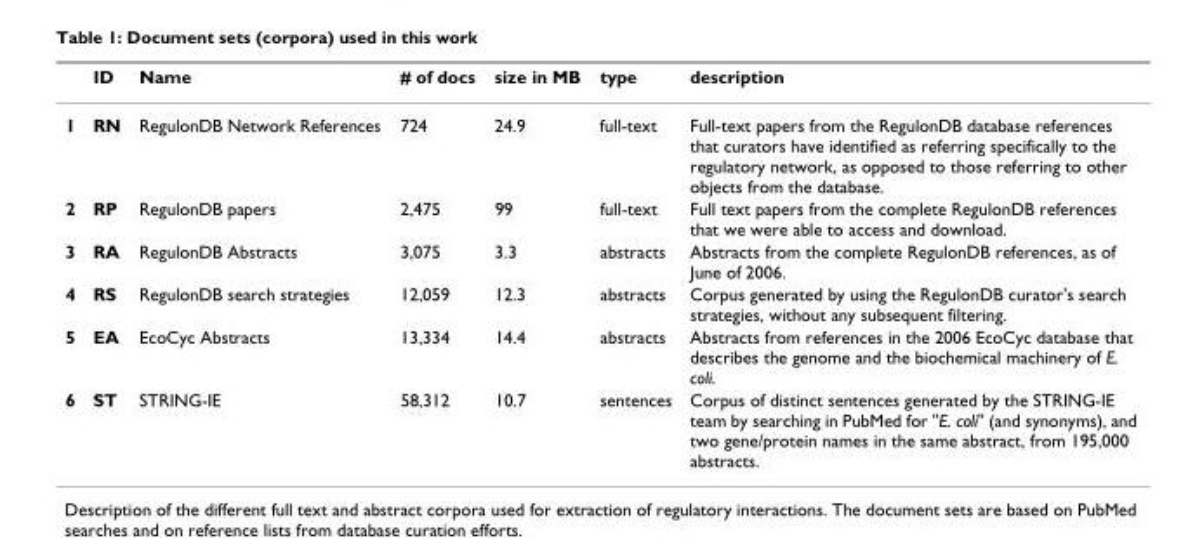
<table><thead><tr><td></td><td>ID</td><td>Name</td><td># of docs</td><td>size in MB</td><td>type</td><td>description</td></tr></thead><tbody><tr><td>1</td><td>RN</td><td>RegulonDB Network References</td><td>724</td><td>24.9</td><td>full-text</td><td>Full-text papers from the RegulonDB database references that curators have identified as referring specifically to the regulatory network, as opposed to those referring to other objects from the database.</td></tr><tr><td>2</td><td>RP</td><td>RegulonDB papers</td><td>2,475</td><td>99</td><td>full-text</td><td>Full text papers from the complete RegulonDB references that we were able to access and download.</td></tr><tr><td>3</td><td>RA</td><td>RegulonDB Abstracts</td><td>3,075</td><td>3.3</td><td>abstracts</td><td>Abstracts from the complete RegulonDB references, as of June of 2006.</td></tr><tr><td>4</td><td>RS</td><td>RegulonDB search strategies</td><td>12,059</td><td>12.3</td><td>abstracts</td><td>Corpus generated by using the RegulonDB curator&#x27;s search strategies, without any subsequent filtering.</td></tr><tr><td>5</td><td>EA</td><td>EcoCyc Abstracts</td><td>13,334</td><td>14.4</td><td>abstracts</td><td>Abstracts from references in the 2006 EcoCyc database that describes the genome and the biochemical machinery of E. coli.</td></tr><tr><td>6</td><td>ST</td><td>STRING-IE</td><td>58,312</td><td>10.7</td><td>sentences</td><td>Corpus of distinct sentences generated by the STRING-IE team by searching in PubMed for &quot;E. coli&quot; (and synonyms), and two gene/protein names in the same abstract, from 195,000 abstracts.</td></tr></tbody></table>